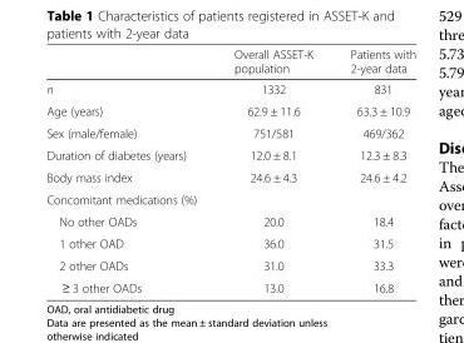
<table><thead><tr><td></td><td>Overall ASSET-K population</td><td>Patients with 2-year data</td></tr></thead><tbody><tr><td>n</td><td>1332</td><td>831</td></tr><tr><td>Age (years)</td><td>62.9 ± 11.6</td><td>63.3 ± 10.9</td></tr><tr><td>Sex (male/female)</td><td>751/581</td><td>469/362</td></tr><tr><td>Duration of diabetes (years)</td><td>12.0 ± 8.1</td><td>12.3 ± 8.3</td></tr><tr><td>Body mass index</td><td>24.6 ± 4.3</td><td>24.6 ± 4.2</td></tr><tr><td colspan="3">Concomitant medications (%)</td></tr><tr><td>No other OADs</td><td>20.0</td><td>18.4</td></tr><tr><td>1 other OAD</td><td>36.0</td><td>31.5</td></tr><tr><td>2 other OADs</td><td>31.0</td><td>33.3</td></tr><tr><td>≥ 3 other OADs</td><td>13.0</td><td>16.8</td></tr></tbody></table>